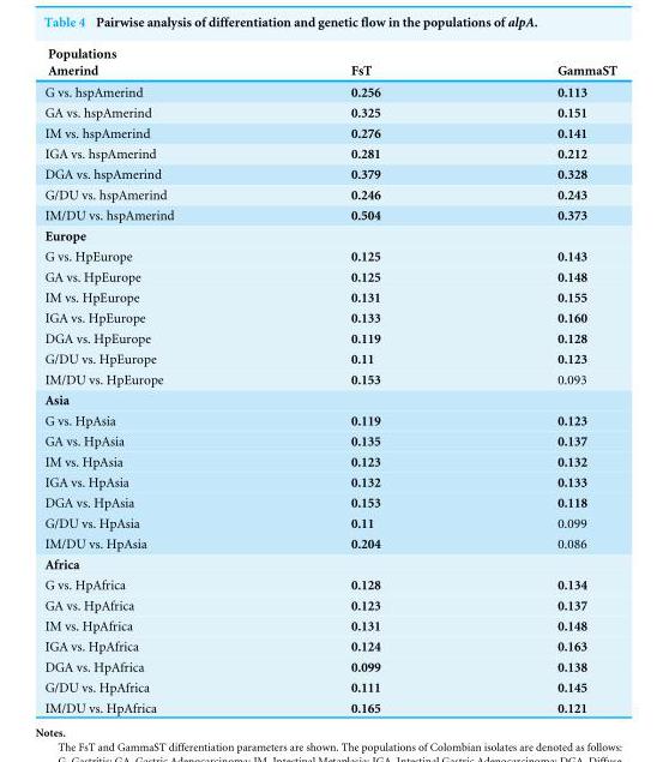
<table><thead><tr><td rowspan="2">Populations Amerind</td><td rowspan="2">FsT</td><td rowspan="2">GammaST</td></tr><tr></tr></thead><tbody><tr><td>G vs. hspAmerind</td><td>0.256</td><td>0.113</td></tr><tr><td>GA vs. hspAmerind</td><td>0.325</td><td>0.151</td></tr><tr><td>IM vs. hspAmerind</td><td>0.276</td><td>0.141</td></tr><tr><td>IGA vs. hspAmerind</td><td>0.281</td><td>0.212</td></tr><tr><td>DGA vs. hspAmerind</td><td>0.379</td><td>0.328</td></tr><tr><td>G/DU vs. hspAmerind</td><td>0.246</td><td>0.243</td></tr><tr><td>IM/DU vs. hspAmerind</td><td>0.504</td><td>0.373</td></tr><tr><td colspan="3">Europe</td></tr><tr><td>G vs. HpEurope</td><td>0.125</td><td>0.143</td></tr><tr><td>GA vs. HpEurope</td><td>0.125</td><td>0.148</td></tr><tr><td>IM vs. HpEurope</td><td>0.131</td><td>0.155</td></tr><tr><td>IGA vs. HpEurope</td><td>0.133</td><td>0.160</td></tr><tr><td>DGA vs. HpEurope</td><td>0.119</td><td>0.128</td></tr><tr><td>G/DU vs. HpEurope</td><td>0.11</td><td>0.123</td></tr><tr><td>IM/DU vs. HpEurope</td><td>0.153</td><td>0.093</td></tr><tr><td colspan="3">Asia</td></tr><tr><td>G vs. HpAsia</td><td>0.119</td><td>0.123</td></tr><tr><td>GA vs. HpAsia</td><td>0.135</td><td>0.137</td></tr><tr><td>IM vs. HpAsia</td><td>0.123</td><td>0.132</td></tr><tr><td>IGA vs. HpAsia</td><td>0.132</td><td>0.133</td></tr><tr><td>DGA vs. HpAsia</td><td>0.153</td><td>0.118</td></tr><tr><td>G/DU vs. HpAsia</td><td>0.11</td><td>0.099</td></tr><tr><td>IM/DU vs. HpAsia</td><td>0.204</td><td>0.086</td></tr><tr><td colspan="3">Africa</td></tr><tr><td>G vs. HpAfrica</td><td>0.128</td><td>0.134</td></tr><tr><td>GA vs. HpAfrica</td><td>0.123</td><td>0.137</td></tr><tr><td>IM vs. HpAfrica</td><td>0.131</td><td>0.148</td></tr><tr><td>IGA vs. HpAfrica</td><td>0.124</td><td>0.163</td></tr><tr><td>DGA vs. HpAfrica</td><td>0.099</td><td>0.138</td></tr><tr><td>G/DU vs. HpAfrica</td><td>0.111</td><td>0.145</td></tr><tr><td>IM/DU vs. HpAfrica</td><td>0.165</td><td>0.121</td></tr></tbody></table>